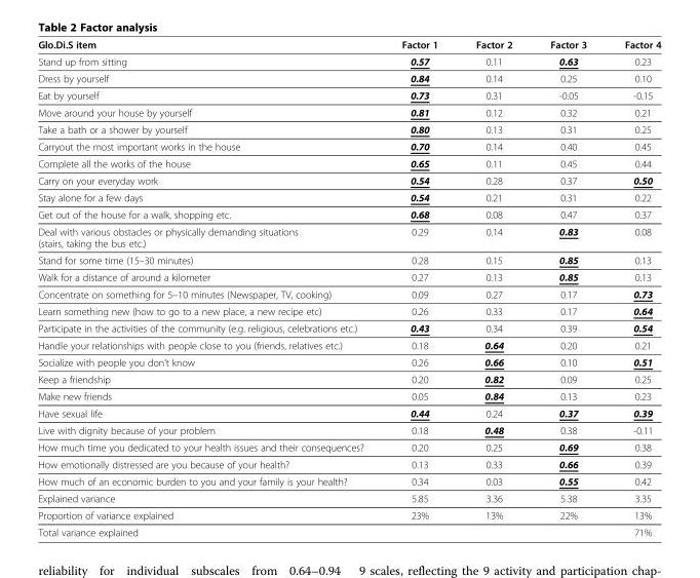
<table><thead><tr><td>Glo.Di.S item</td><td>Factor 1</td><td>Factor 2</td><td>Factor 3</td><td>Factor 4</td></tr></thead><tbody><tr><td>Stand up from sitting</td><td>0.57</td><td>0.11</td><td>0.63</td><td>0.23</td></tr><tr><td>Dress by yourself</td><td>0.84</td><td>0.14</td><td>0.25</td><td>0.10</td></tr><tr><td>Eat by yourself</td><td>0.73</td><td>0.31</td><td>-0.05</td><td>-0.15</td></tr><tr><td>Move around your house by yourself</td><td>0.81</td><td>0.12</td><td>0.32</td><td>0.21</td></tr><tr><td>Take a bath or a shower by yourself</td><td>0.80</td><td>0.13</td><td>0.31</td><td>0.25</td></tr><tr><td>Carryout the most important works in the house</td><td>0.70</td><td>0.14</td><td>0.40</td><td>0.45</td></tr><tr><td>Complete all the works of the house</td><td>0.65</td><td>0.11</td><td>0.45</td><td>0.44</td></tr><tr><td>Carry on your everyday work</td><td>0.54</td><td>0.28</td><td>0.37</td><td>0.50</td></tr><tr><td>Stay alone for a few days</td><td>0.54</td><td>0.21</td><td>0.31</td><td>0.22</td></tr><tr><td>Get out of the house for a walk, shopping etc.</td><td>0.68</td><td>0.08</td><td>0.47</td><td>0.37</td></tr><tr><td>Deal with various obstacles or physically demanding situations (stairs, taking the bus etc.)</td><td>0.29</td><td>0.14</td><td>0.83</td><td>0.08</td></tr><tr><td>Stand for some time (15–30 minutes)</td><td>0.28</td><td>0.15</td><td>0.85</td><td>0.13</td></tr><tr><td>Walk for a distance of around a kilometer</td><td>0.27</td><td>0.13</td><td>0.85</td><td>0.13</td></tr><tr><td>Concentrate on something for 5–10 minutes (Newspaper, TV, cooking)</td><td>0.09</td><td>0.27</td><td>0.17</td><td>0.73</td></tr><tr><td>Learn something new (how to go to a new place, a new recipe etc)</td><td>0.26</td><td>0.33</td><td>0.17</td><td>0.64</td></tr><tr><td>Participate in the activities of the community (e.g. religious, celebrations etc.)</td><td>0.43</td><td>0.34</td><td>0.39</td><td>0.54</td></tr><tr><td>Handle your relationships with people close to you (friends, relatives etc.)</td><td>0.18</td><td>0.64</td><td>0.20</td><td>0.21</td></tr><tr><td>Socialize with people you don’t know</td><td>0.26</td><td>0.66</td><td>0.10</td><td>0.51</td></tr><tr><td>Keep a friendship</td><td>0.20</td><td>0.82</td><td>0.09</td><td>0.25</td></tr><tr><td>Make new friends</td><td>0.05</td><td>0.84</td><td>0.13</td><td>0.23</td></tr><tr><td>Have sexual life</td><td>0.44</td><td>0.24</td><td>0.37</td><td>0.39</td></tr><tr><td>Live with dignity because of your problem</td><td>0.18</td><td>0.48</td><td>0.38</td><td>-0.11</td></tr><tr><td>How much time you dedicated to your health issues and their consequences?</td><td>0.20</td><td>0.25</td><td>0.69</td><td>0.38</td></tr><tr><td>How emotionally distressed are you because of your health?</td><td>0.13</td><td>0.33</td><td>0.66</td><td>0.39</td></tr><tr><td>How much of an economic burden to you and your family is your health?</td><td>0.34</td><td>0.03</td><td>0.55</td><td>0.42</td></tr><tr><td>Explained variance</td><td>5.85</td><td>3.36</td><td>5.38</td><td>3.35</td></tr><tr><td>Proportion of variance explained</td><td>23%</td><td>13%</td><td>22%</td><td>13%</td></tr><tr><td>Total variance explained</td><td></td><td></td><td></td><td>71%</td></tr></tbody></table>